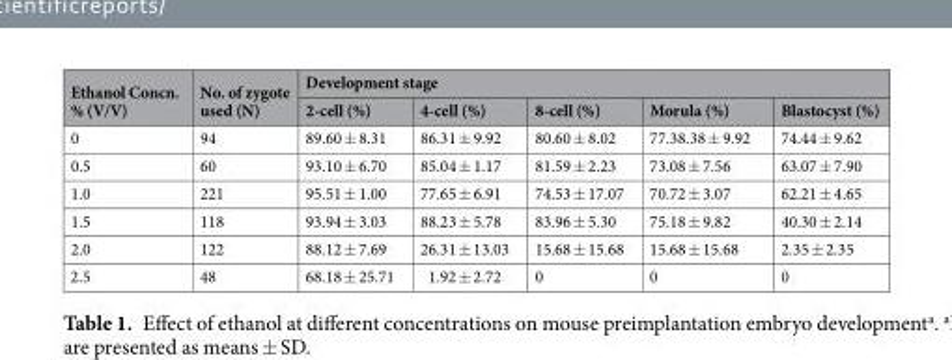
<table><thead><tr><td rowspan="2">Ethanol Concn. % (V/V)</td><td rowspan="2">No. of zygote used (N)</td><td colspan="5">Development stage</td></tr><tr><td>2-cell (%)</td><td>4-cell (%)</td><td>8-cell (%)</td><td>Morula (%)</td><td>Blastocyst (%)</td></tr></thead><tbody><tr><td>0</td><td>94</td><td>89.60 ± 8.31</td><td>86.31 ± 9.92</td><td>80.60 ± 8.02</td><td>77.38.38 ± 9.92</td><td>74.44 ± 9.62</td></tr><tr><td>0.5</td><td>60</td><td>93.10 ± 6.70</td><td>85.04 ± 1.17</td><td>81.59 ± 2.23</td><td>73.08 ± 7.56</td><td>63.07 ± 7.90</td></tr><tr><td>1.0</td><td>221</td><td>95.51 ± 1.00</td><td>77.65 ± 6.91</td><td>74.53 ± 17.07</td><td>70.72 ± 3.07</td><td>62.21 ± 4.65</td></tr><tr><td>1.5</td><td>118</td><td>93.94 ± 3.03</td><td>88.23 ± 5.78</td><td>83.96 ± 5.30</td><td>75.18 ± 9.82</td><td>40.30 ± 2.14</td></tr><tr><td>2.0</td><td>122</td><td>88.12 ± 7.69</td><td>26.31 ± 13.03</td><td>15.68 ± 15.68</td><td>15.68 ± 15.68</td><td>2.35 ± 2.35</td></tr><tr><td>2.5</td><td>48</td><td>68.18 ± 25.71</td><td>1.92 ± 2.72</td><td>0</td><td>0</td><td>0</td></tr></tbody></table>